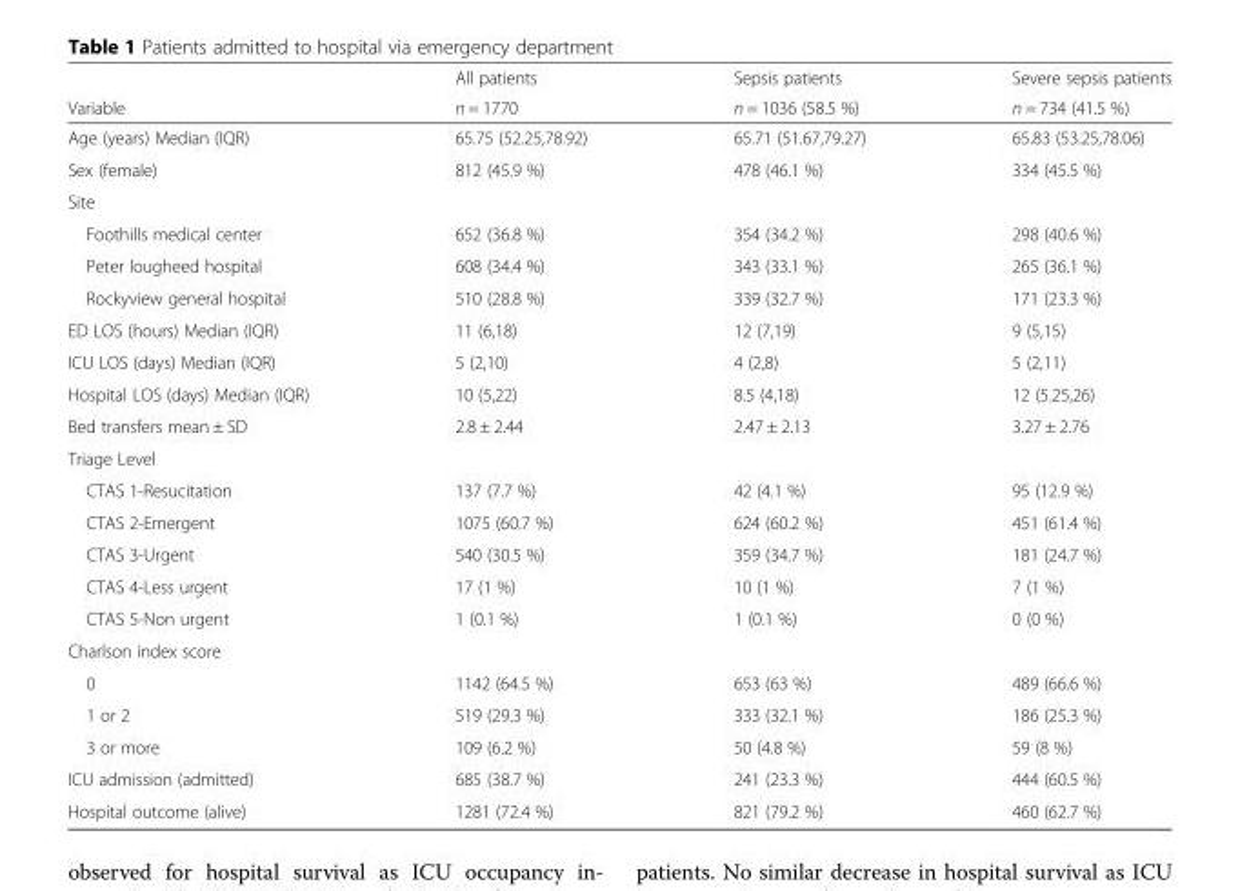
<table><thead><tr><td rowspan="2">Variable</td><td rowspan="2">All patients n = 1770</td><td rowspan="2">Sepsis patients n = 1036 (58.5 %)</td><td rowspan="2">Severe sepsis patients n = 734 (41.5 %)</td></tr><tr></tr></thead><tbody><tr><td>Age (years) Median (IQR)</td><td>65.75 (52.25,78.92)</td><td>65.71 (51.67,79.27)</td><td>65.83 (53.25,78.06)</td></tr><tr><td>Sex (female)</td><td>812 (45.9 %)</td><td>478 (46.1 %)</td><td>334 (45.5 %)</td></tr><tr><td colspan="4">Site</td></tr><tr><td>Foothills medical center</td><td>652 (36.8 %)</td><td>354 (34.2 %)</td><td>298 (40.6 %)</td></tr><tr><td>Peter lougheed hospital</td><td>608 (34.4 %)</td><td>343 (33.1 %)</td><td>265 (36.1 %)</td></tr><tr><td>Rockyview general hospital</td><td>510 (28.8 %)</td><td>339 (32.7 %)</td><td>171 (23.3 %)</td></tr><tr><td>ED LOS (hours) Median (IQR)</td><td>11 (6,18)</td><td>12 (7,19)</td><td>9 (5,15)</td></tr><tr><td>ICU LOS (days) Median (IQR)</td><td>5 (2,10)</td><td>4 (2,8)</td><td>5 (2,11)</td></tr><tr><td>Hospital LOS (days) Median (IQR)</td><td>10 (5,22)</td><td>8.5 (4,18)</td><td>12 (5.25,26)</td></tr><tr><td>Bed transfers mean ± SD</td><td>2.8 ± 2.44</td><td>2.47 ± 2.13</td><td>3.27 ± 2.76</td></tr><tr><td colspan="4">Triage Level</td></tr><tr><td>CTAS 1-Resucitation</td><td>137 (7.7 %)</td><td>42 (4.1 %)</td><td>95 (12.9 %)</td></tr><tr><td>CTAS 2-Emergent</td><td>1075 (60.7 %)</td><td>624 (60.2 %)</td><td>451 (61.4 %)</td></tr><tr><td>CTAS 3-Urgent</td><td>540 (30.5 %)</td><td>359 (34.7 %)</td><td>181 (24.7 %)</td></tr><tr><td>CTAS 4-Less urgent</td><td>17 (1 %)</td><td>10 (1 %)</td><td>7 (1 %)</td></tr><tr><td>CTAS 5-Non urgent</td><td>1 (0.1 %)</td><td>1 (0.1 %)</td><td>0 (0 %)</td></tr><tr><td colspan="4">Charlson index score</td></tr><tr><td>0</td><td>1142 (64.5 %)</td><td>653 (63 %)</td><td>489 (66.6 %)</td></tr><tr><td>1 or 2</td><td>519 (29.3 %)</td><td>333 (32.1 %)</td><td>186 (25.3 %)</td></tr><tr><td>3 or more</td><td>109 (6.2 %)</td><td>50 (4.8 %)</td><td>59 (8 %)</td></tr><tr><td>ICU admission (admitted)</td><td>685 (38.7 %)</td><td>241 (23.3 %)</td><td>444 (60.5 %)</td></tr><tr><td>Hospital outcome (alive)</td><td>1281 (72.4 %)</td><td>821 (79.2 %)</td><td>460 (62.7 %)</td></tr></tbody></table>